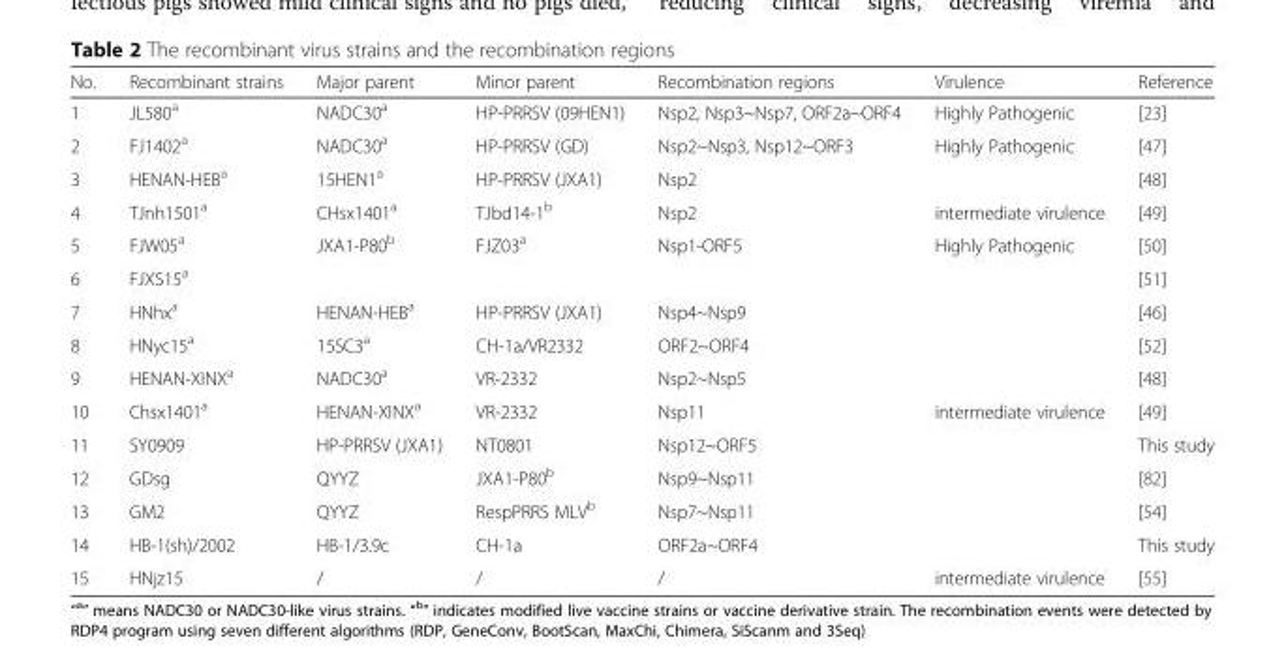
<table><thead><tr><td>No.</td><td>Recombinant strains</td><td>Major parent</td><td>Minor parent</td><td>Recombination regions</td><td>Virulence</td><td>Reference</td></tr></thead><tbody><tr><td>1</td><td>JL580<sup>a</sup></td><td>NADC30<sup>a</sup></td><td>HP-PRRSV (09HEN1)</td><td>Nsp2, Nsp3~Nsp7, ORF2a~ORF4</td><td>Highly Pathogenic</td><td>[23]</td></tr><tr><td>2</td><td>FJ1402<sup>a</sup></td><td>NADC30<sup>a</sup></td><td>HP-PRRSV (GD)</td><td>Nsp2~Nsp3, Nsp12~ORF3</td><td>Highly Pathogenic</td><td>[47]</td></tr><tr><td>3</td><td>HENAN-HEB<sup>a</sup></td><td>15HEN1<sup>a</sup></td><td>HP-PRRSV (JXA1)</td><td>Nsp2</td><td></td><td>[48]</td></tr><tr><td>4</td><td>TJnh1501<sup>a</sup></td><td>CHsx1401<sup>a</sup></td><td>TJbd14-1<sup>b</sup></td><td>Nsp2</td><td>intermediate virulence</td><td>[49]</td></tr><tr><td>5</td><td>FJW05<sup>a</sup></td><td rowspan="2">JXA1-P80<sup>b</sup></td><td rowspan="2">FJZ03<sup>a</sup></td><td rowspan="2">Nsp1-ORF5</td><td rowspan="2">Highly Pathogenic</td><td>[50]</td></tr><tr><td>6</td><td>FJXS15<sup>a</sup></td><td>[51]</td></tr><tr><td>7</td><td>HNhx<sup>a</sup></td><td>HENAN-HEB<sup>a</sup></td><td>HP-PRRSV (JXA1)</td><td>Nsp4~Nsp9</td><td></td><td>[46]</td></tr><tr><td>8</td><td>HNyc15<sup>a</sup></td><td>15SC3<sup>a</sup></td><td>CH-1a/VR2332</td><td>ORF2~ORF4</td><td></td><td>[52]</td></tr><tr><td>9</td><td>HENAN-XINX<sup>a</sup></td><td>NADC30<sup>a</sup></td><td>VR-2332</td><td>Nsp2~Nsp5</td><td></td><td>[48]</td></tr><tr><td>10</td><td>Chsx1401<sup>a</sup></td><td>HENAN-XINX<sup>a</sup></td><td>VR-2332</td><td>Nsp11</td><td>intermediate virulence</td><td>[49]</td></tr><tr><td>11</td><td>SY0909</td><td>HP-PRRSV (JXA1)</td><td>NT0801</td><td>Nsp12~ORF5</td><td></td><td>This study</td></tr><tr><td>12</td><td>GDsg</td><td>QYYZ</td><td>JXA1-P80<sup>b</sup></td><td>Nsp9~Nsp11</td><td></td><td>[82]</td></tr><tr><td>13</td><td>GM2</td><td>QYYZ</td><td>RespPRRS MLV<sup>b</sup></td><td>Nsp7~Nsp11</td><td></td><td>[54]</td></tr><tr><td>14</td><td>HB-1(sh)/2002</td><td>HB-1/3.9c</td><td>CH-1a</td><td>ORF2a~ORF4</td><td></td><td>This study</td></tr><tr><td>15</td><td>HNjz15</td><td>/</td><td>/</td><td>/</td><td>intermediate virulence</td><td>[55]</td></tr></tbody></table>